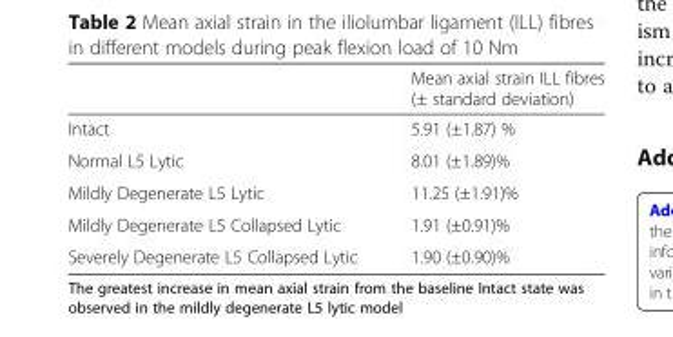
<table><thead><tr><td></td><td>Mean axial strain ILL fibres (± standard deviation)</td></tr></thead><tbody><tr><td>Intact</td><td>5.91 (±1.87) %</td></tr><tr><td>Normal L5 Lytic</td><td>8.01 (±1.89)%</td></tr><tr><td>Mildly Degenerate L5 Lytic</td><td>11.25 (±1.91)%</td></tr><tr><td>Mildly Degenerate L5 Collapsed Lytic</td><td>1.91 (±0.91)%</td></tr><tr><td>Severely Degenerate L5 Collapsed Lytic</td><td>1.90 (±0.90)%</td></tr></tbody></table>